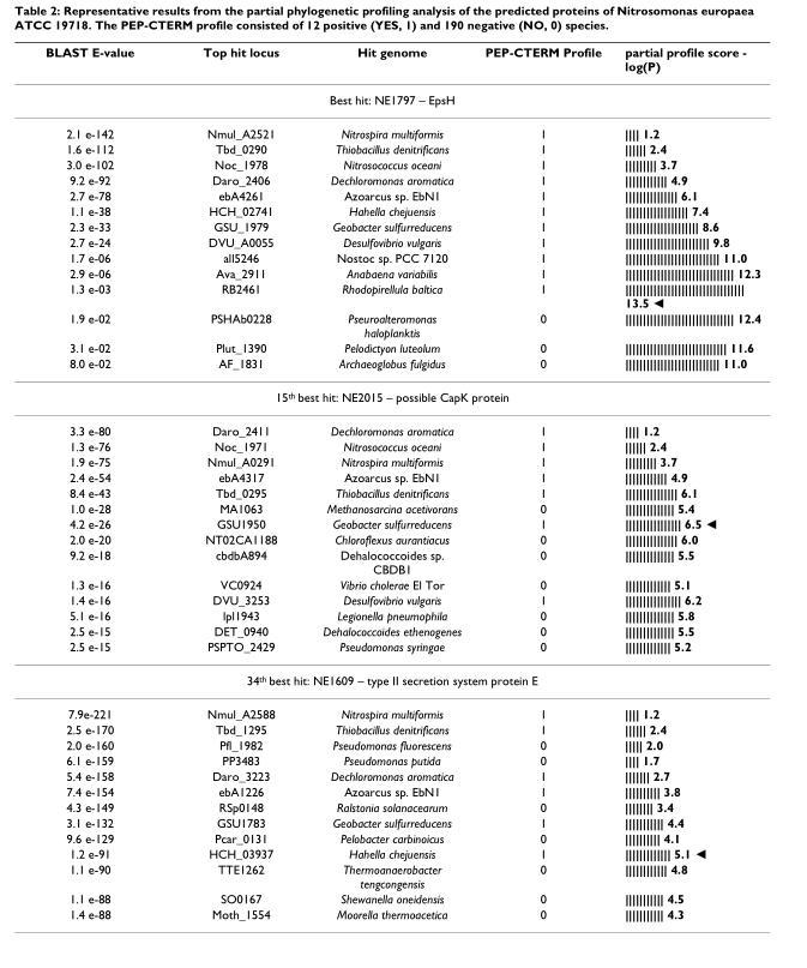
<table><thead><tr><td>BLAST E-value</td><td>Top hit locus</td><td>Hit genome</td><td>PEP-CTERM Profile</td><td>partial profile score - log(P)</td></tr></thead><tbody><tr><td colspan="5">Best hit: NE1797 – EpsH</td></tr><tr><td>2.1 e-142</td><td>Nmul_A2521</td><td>Nitrospira multiformis</td><td>1</td><td>|||| 1.2</td></tr><tr><td>1.6 e-112</td><td>Tbd_0290</td><td>Thiobacillus denitrificans</td><td>1</td><td>|||||| 2.4</td></tr><tr><td>3.0 e-102</td><td>Noc_1978</td><td>Nitrosococcus oceani</td><td>1</td><td>||||||||| 3.7</td></tr><tr><td>9.2 e-92</td><td>Daro_2406</td><td>Dechloromonas aromatica</td><td>1</td><td>|||||||||||| 4.9</td></tr><tr><td>2.7 e-78</td><td>ebA4261</td><td>Azoarcus sp. EbN1</td><td>1</td><td>||||||||||||||| 6.1</td></tr><tr><td>1.1 e-38</td><td>HCH_02741</td><td>Hahella chejuensis</td><td>1</td><td>|||||||||||||||||| 7.4</td></tr><tr><td>2.3 e-33</td><td>GSU_1979</td><td>Geobacter sulfurreducens</td><td>1</td><td>||||||||||||||||||||| 8.6</td></tr><tr><td>2.7 e-24</td><td>DVU_A0055</td><td>Desulfovibrio vulgaris</td><td>1</td><td>|||||||||||||||||||||||| 9.8</td></tr><tr><td>1.7 e-06</td><td>all5246</td><td>Nostoc sp. PCC 7120</td><td>1</td><td>||||||||||||||||||||||||||| 11.0</td></tr><tr><td>2.9 e-06</td><td>Ava_2911</td><td>Anabaena variabilis</td><td>1</td><td>||||||||||||||||||||||||||||||| 12.3</td></tr><tr><td>1.3 e-03</td><td>RB2461</td><td>Rhodopirellula baltica</td><td>1</td><td>|||||||||||||||||||||||||||||||||| 13.5 *</td></tr><tr><td>1.9 e-02</td><td>PSHAb0228</td><td>Pseuroalteromonas haloplanktis</td><td>0</td><td>||||||||||||||||||||||||||||||| 12.4</td></tr><tr><td>3.1 e-02</td><td>Plut_1390</td><td>Pelodictyon luteolum</td><td>0</td><td>||||||||||||||||||||||||||||| 11.6</td></tr><tr><td>8.0 e-02</td><td>AF_1831</td><td>Archaeoglobus fulgidus</td><td>0</td><td>||||||||||||||||||||||||||| 11.0</td></tr><tr><td colspan="5">15th best hit: NE2015 – possible CapK protein</td></tr><tr><td>3.3 e-80</td><td>Daro_2411</td><td>Dechloromonas aromatica</td><td>1</td><td>|||| 1.2</td></tr><tr><td>1.3 e-76</td><td>Noc_1971</td><td>Nitrosococcus oceani</td><td>1</td><td>|||||| 2.4</td></tr><tr><td>1.9 e-75</td><td>Nmul_A0291</td><td>Nitrospira multiformis</td><td>1</td><td>||||||||| 3.7</td></tr><tr><td>2.4 e-54</td><td>ebA4317</td><td>Azoarcus sp. EbN1</td><td>1</td><td>|||||||||||| 4.9</td></tr><tr><td>8.4 e-43</td><td>Tbd_0295</td><td>Thiobacillus denitrificans</td><td>1</td><td>||||||||||||||| 6.1</td></tr><tr><td>1.0 e-28</td><td>MA1063</td><td>Methanosarcina acetivorans</td><td>0</td><td>|||||||||||||| 5.4</td></tr><tr><td>4.2 e-26</td><td>GSU1950</td><td>Geobacter sulfurreducens</td><td>1</td><td>|||||||||||||||| 6.5 *</td></tr><tr><td>2.0 e-20</td><td>NT02CA1188</td><td>Chloroflexus aurantiacus</td><td>0</td><td>||||||||||||||| 6.0</td></tr><tr><td>9.2 e-18</td><td>cbdbA894</td><td>Dehalococcoides sp. CBDB1</td><td>0</td><td>|||||||||||||| 5.5</td></tr><tr><td>1.3 e-16</td><td>VC0924</td><td>Vibrio cholerae El Tor</td><td>0</td><td>||||||||||||| 5.1</td></tr><tr><td>1.4 e-16</td><td>DVU_3253</td><td>Desulfovibrio vulgaris</td><td>1</td><td>|||||||||||||||| 6.2</td></tr><tr><td>5.1 e-16</td><td>lpl1943</td><td>Legionella pneumophila</td><td>0</td><td>|||||||||||||| 5.8</td></tr><tr><td>2.5 e-15</td><td>DET_0940</td><td>Dehalococcoides ethenogenes</td><td>0</td><td>|||||||||||||| 5.5</td></tr><tr><td>2.5 e-15</td><td>PSPTO_2429</td><td>Pseudomonas syringae</td><td>0</td><td>||||||||||||| 5.2</td></tr><tr><td colspan="5">34th best hit: NE1609 – type II secretion system protein E</td></tr><tr><td>7.9e-221</td><td>Nmul_A2588</td><td>Nitrospira multiformis</td><td>1</td><td>|||| 1.2</td></tr><tr><td>2.5 e-170</td><td>Tbd_1295</td><td>Thiobacillus denitrificans</td><td>1</td><td>|||||| 2.4</td></tr><tr><td>2.0 e-160</td><td>Pfl_1982</td><td>Pseudomonas fluorescens</td><td>0</td><td>||||| 2.0</td></tr><tr><td>6.1 e-159</td><td>PP3483</td><td>Pseudomonas putida</td><td>0</td><td>|||| 1.7</td></tr><tr><td>5.4 e-158</td><td>Daro_3223</td><td>Dechloromonas aromatica</td><td>1</td><td>||||||| 2.7</td></tr><tr><td>7.4 e-154</td><td>ebA1226</td><td>Azoarcus sp. EbN1</td><td>1</td><td>|||||||||| 3.8</td></tr><tr><td>4.3 e-149</td><td>RSp0148</td><td>Ralstonia solanacearum</td><td>0</td><td>|||||||| 3.4</td></tr><tr><td>3.1 e-132</td><td>GSU1783</td><td>Geobacter sulfurreducens</td><td>1</td><td>||||||||||| 4.4</td></tr><tr><td>9.6 e-129</td><td>Pcar_0131</td><td>Pelobacter carbinoicus</td><td>0</td><td>|||||||||| 4.1</td></tr><tr><td>1.2 e-91</td><td>HCH_03937</td><td>Hahella chejuensis</td><td>1</td><td>||||||||||||| 5.1 *</td></tr><tr><td>1.1 e-90</td><td>TTE1262</td><td>Thermoanaerobacter tengcongensis</td><td>0</td><td>|||||||||||| 4.8</td></tr><tr><td>1.1 e-88</td><td>SO0167</td><td>Shewanella oneidensis</td><td>0</td><td>||||||||||| 4.5</td></tr><tr><td>1.4 e-88</td><td>Moth_1554</td><td>Moorella thermoacetica</td><td>0</td><td>||||||||||| 4.3</td></tr></tbody></table>